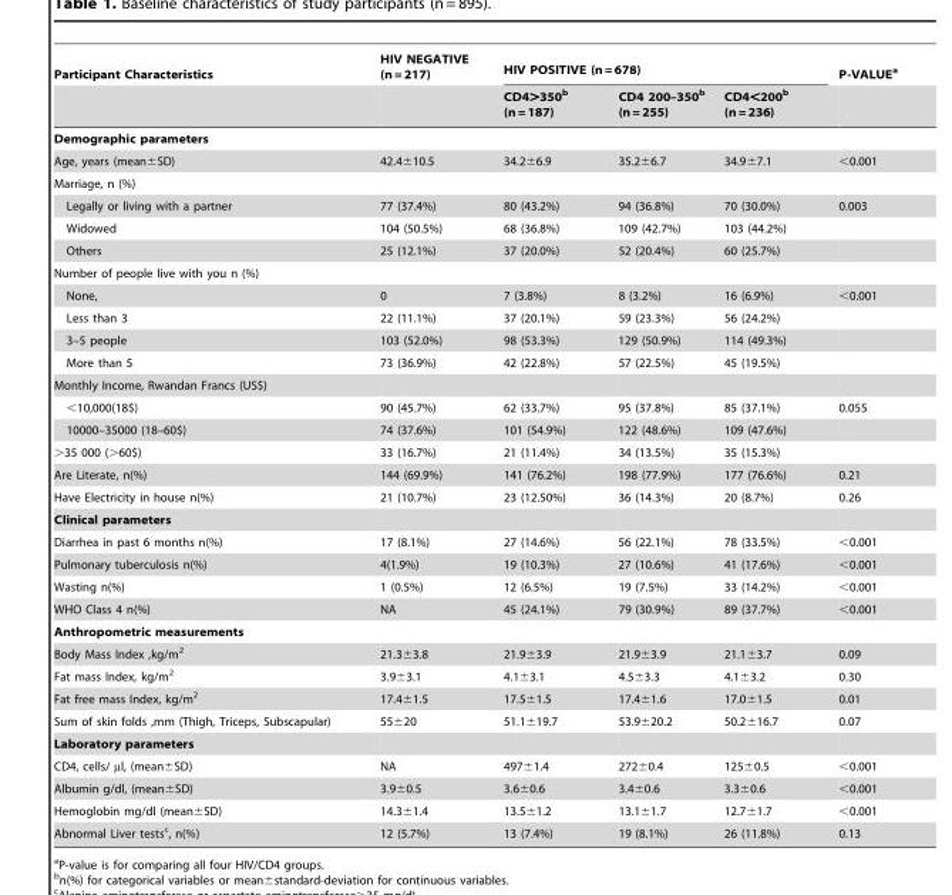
<table><thead><tr><td rowspan="2">Participant Characteristics</td><td rowspan="2">HIV NEGATIVE (n = 217)</td><td colspan="3">HIV POSITIVE (n = 678)</td><td rowspan="2">P-VALUE<sup>a</sup></td></tr><tr><td>CD4&gt;350<sup>b</sup> (n = 187)</td><td>CD4 200–350<sup>b</sup> (n = 255)</td><td>CD4&lt;200<sup>b</sup> (n = 236)</td></tr></thead><tbody><tr><td colspan="6">Demographic parameters</td></tr><tr><td>Age, years (mean±SD)</td><td>42.4±10.5</td><td>34.2±6.9</td><td>35.2±6.7</td><td>34.9±7.1</td><td>&lt;0.001</td></tr><tr><td colspan="6">Marriage, n (%)</td></tr><tr><td>Legally or living with a partner</td><td>77 (37.4%)</td><td>80 (43.2%)</td><td>94 (36.8%)</td><td>70 (30.0%)</td><td>0.003</td></tr><tr><td>Widowed</td><td>104 (50.5%)</td><td>68 (36.8%)</td><td>109 (42.7%)</td><td>103 (44.2%)</td><td></td></tr><tr><td>Others</td><td>25 (12.1%)</td><td>37 (20.0%)</td><td>52 (20.4%)</td><td>60 (25.7%)</td><td></td></tr><tr><td colspan="6">Number of people live with you n (%)</td></tr><tr><td>None,</td><td>0</td><td>7 (3.8%)</td><td>8 (3.2%)</td><td>16 (6.9%)</td><td>&lt;0.001</td></tr><tr><td>Less than 3</td><td>22 (11.1%)</td><td>37 (20.1%)</td><td>59 (23.3%)</td><td>56 (24.2%)</td><td></td></tr><tr><td>3–5 people</td><td>103 (52.0%)</td><td>98 (53.3%)</td><td>129 (50.9%)</td><td>114 (49.3%)</td><td></td></tr><tr><td>More than 5</td><td>73 (36.9%)</td><td>42 (22.8%)</td><td>57 (22.5%)</td><td>45 (19.5%)</td><td></td></tr><tr><td colspan="6">Monthly Income, Rwandan Francs (US$)</td></tr><tr><td>&lt;10,000(18$)</td><td>90 (45.7%)</td><td>62 (33.7%)</td><td>95 (37.8%)</td><td>85 (37.1%)</td><td>0.055</td></tr><tr><td>10000–35000 (18–60$)</td><td>74 (37.6%)</td><td>101 (54.9%)</td><td>122 (48.6%)</td><td>109 (47.6%)</td><td></td></tr><tr><td>&gt;35 000 (&gt;60$)</td><td>33 (16.7%)</td><td>21 (11.4%)</td><td>34 (13.5%)</td><td>35 (15.3%)</td><td></td></tr><tr><td>Are Literate, n(%)</td><td>144 (69.9%)</td><td>141 (76.2%)</td><td>198 (77.9%)</td><td>177 (76.6%)</td><td>0.21</td></tr><tr><td>Have Electricity in house n(%)</td><td>21 (10.7%)</td><td>23 (12.50%)</td><td>36 (14.3%)</td><td>20 (8.7%)</td><td>0.26</td></tr><tr><td colspan="6">Clinical parameters</td></tr><tr><td>Diarrhea in past 6 months n(%)</td><td>17 (8.1%)</td><td>27 (14.6%)</td><td>56 (22.1%)</td><td>78 (33.5%)</td><td>&lt;0.001</td></tr><tr><td>Pulmonary tuberculosis n(%)</td><td>4(1.9%)</td><td>19 (10.3%)</td><td>27 (10.6%)</td><td>41 (17.6%)</td><td>&lt;0.001</td></tr><tr><td>Wasting n(%)</td><td>1 (0.5%)</td><td>12 (6.5%)</td><td>19 (7.5%)</td><td>33 (14.2%)</td><td>&lt;0.001</td></tr><tr><td>WHO Class 4 n(%)</td><td>NA</td><td>45 (24.1%)</td><td>79 (30.9%)</td><td>89 (37.7%)</td><td>&lt;0.001</td></tr><tr><td colspan="6">Anthropometric measurements</td></tr><tr><td>Body Mass Index ,kg/m<sup>2</sup></td><td>21.3±3.8</td><td>21.9±3.9</td><td>21.9±3.9</td><td>21.1±3.7</td><td>0.09</td></tr><tr><td>Fat mass Index, kg/m<sup>2</sup></td><td>3.9±3.1</td><td>4.1±3.1</td><td>4.5±3.3</td><td>4.1±3.2</td><td>0.30</td></tr><tr><td>Fat free mass Index, kg/m<sup>2</sup></td><td>17.4±1.5</td><td>17.5±1.5</td><td>17.4±1.6</td><td>17.0±1.5</td><td>0.01</td></tr><tr><td>Sum of skin folds ,mm (Thigh, Triceps, Subscapular)</td><td>55±20</td><td>51.1±19.7</td><td>53.9±20.2</td><td>50.2±16.7</td><td>0.07</td></tr><tr><td colspan="6">Laboratory parameters</td></tr><tr><td>CD4, cells/ µl, (mean±SD)</td><td>NA</td><td>497±1.4</td><td>272±0.4</td><td>125±0.5</td><td>&lt;0.001</td></tr><tr><td>Albumin g/dl, (mean±SD)</td><td>3.9±0.5</td><td>3.6±0.6</td><td>3.4±0.6</td><td>3.3±0.6</td><td>&lt;0.001</td></tr><tr><td>Hemoglobin mg/dl (mean±SD)</td><td>14.3±1.4</td><td>13.5±1.2</td><td>13.1±1.7</td><td>12.7±1.7</td><td>&lt;0.001</td></tr><tr><td>Abnormal Liver tests<sup>c</sup>, n(%)</td><td>12 (5.7%)</td><td>13 (7.4%)</td><td>19 (8.1%)</td><td>26 (11.8%)</td><td>0.13</td></tr></tbody></table>